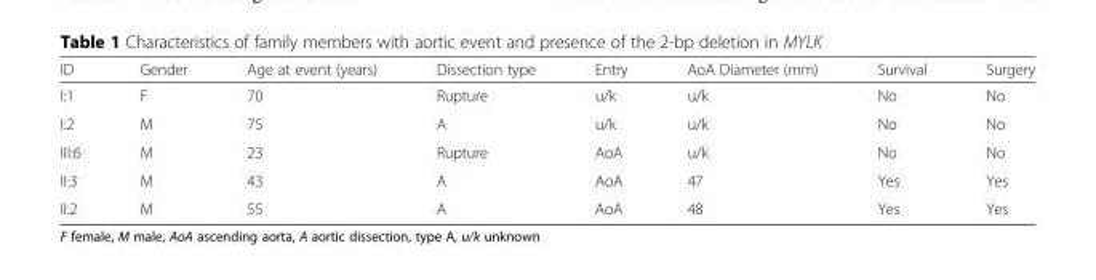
<table><thead><tr><td>ID</td><td>Gender</td><td>Age at event (years)</td><td>Dissection type</td><td>Entry</td><td>AoA Diameter (mm)</td><td>Survival</td><td>Surgery</td></tr></thead><tbody><tr><td>I:1</td><td>F</td><td>70</td><td>Rupture</td><td>u/k</td><td>u/k</td><td>No</td><td>No</td></tr><tr><td>I:2</td><td>M</td><td>75</td><td>A</td><td>u/k</td><td>u/k</td><td>No</td><td>No</td></tr><tr><td>III:6</td><td>M</td><td>23</td><td>Rupture</td><td>AoA</td><td>u/k</td><td>No</td><td>No</td></tr><tr><td>II:3</td><td>M</td><td>43</td><td>A</td><td>AoA</td><td>47</td><td>Yes</td><td>Yes</td></tr><tr><td>II:2</td><td>M</td><td>55</td><td>A</td><td>AoA</td><td>48</td><td>Yes</td><td>Yes</td></tr></tbody></table>